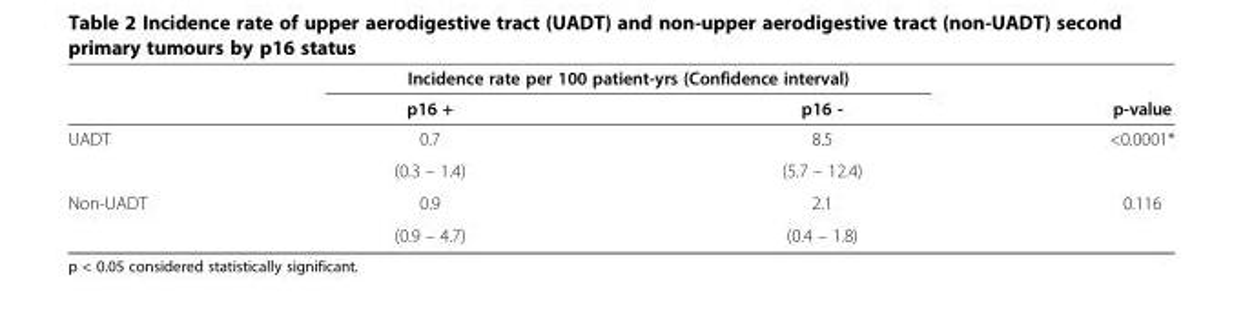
<table><thead><tr><td rowspan="2"></td><td colspan="2">Incidence rate per 100 patient-yrs (Confidence interval)</td><td rowspan="2">p-value</td></tr><tr><td>p16 +</td><td>p16 -</td></tr></thead><tbody><tr><td rowspan="2">UADT</td><td>0.7</td><td>8.5</td><td>&lt;0.0001*</td></tr><tr><td>(0.3 – 1.4)</td><td>(5.7 – 12.4)</td><td></td></tr><tr><td rowspan="2">Non-UADT</td><td>0.9</td><td>2.1</td><td>0.116</td></tr><tr><td>(0.9 – 4.7)</td><td>(0.4 – 1.8)</td><td></td></tr></tbody></table>